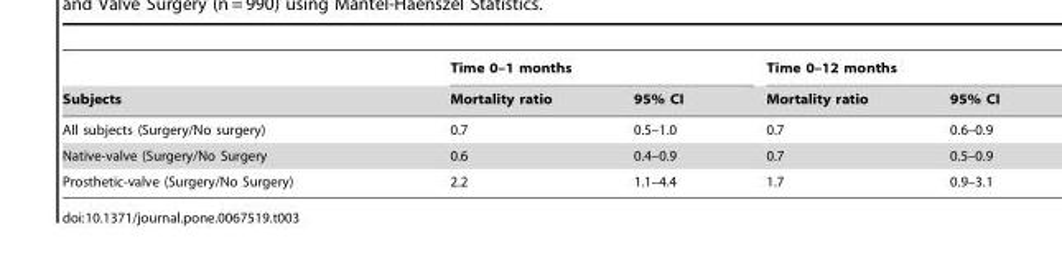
<table><thead><tr><td rowspan="2">Subjects</td><td colspan="2">Time 0–1 months</td><td colspan="2">Time 0–12 months</td></tr><tr><td>Mortality ratio</td><td>95% CI</td><td>Mortality ratio</td><td>95% CI</td></tr></thead><tbody><tr><td>All subjects (Surgery/No surgery)</td><td>0.7</td><td>0.5–1.0</td><td>0.7</td><td>0.6–0.9</td></tr><tr><td>Native-valve (Surgery/No Surgery</td><td>0.6</td><td>0.4–0.9</td><td>0.7</td><td>0.5–0.9</td></tr><tr><td>Prosthetic-valve (Surgery/No Surgery)</td><td>2.2</td><td>1.1–4.4</td><td>1.7</td><td>0.9–3.1</td></tr></tbody></table>